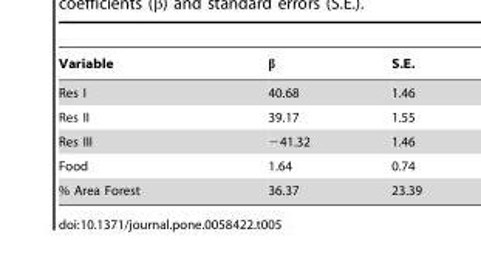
<table><thead><tr><td>Variable</td><td>β</td><td>S.E.</td></tr></thead><tbody><tr><td>Res I</td><td>40.68</td><td>1.46</td></tr><tr><td>Res II</td><td>39.17</td><td>1.55</td></tr><tr><td>Res III</td><td>−41.32</td><td>1.46</td></tr><tr><td>Food</td><td>1.64</td><td>0.74</td></tr><tr><td>% Area Forest</td><td>36.37</td><td>23.39</td></tr></tbody></table>